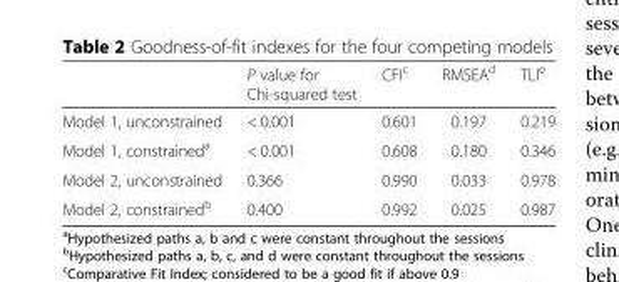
<table><thead><tr><td></td><td>P value for Chi-squared test</td><td>CFI<sup>c</sup></td><td>RMSEA<sup>d</sup></td><td>TLI<sup>e</sup></td></tr></thead><tbody><tr><td>Model 1, unconstrained</td><td>&lt; 0.001</td><td>0.601</td><td>0.197</td><td>0.219</td></tr><tr><td>Model 1, constrained<sup>a</sup></td><td>&lt; 0.001</td><td>0.608</td><td>0.180</td><td>0.346</td></tr><tr><td>Model 2, unconstrained</td><td>0.366</td><td>0.990</td><td>0.033</td><td>0.978</td></tr><tr><td>Model 2, constrained<sup>b</sup></td><td>0.400</td><td>0.992</td><td>0.025</td><td>0.987</td></tr></tbody></table>